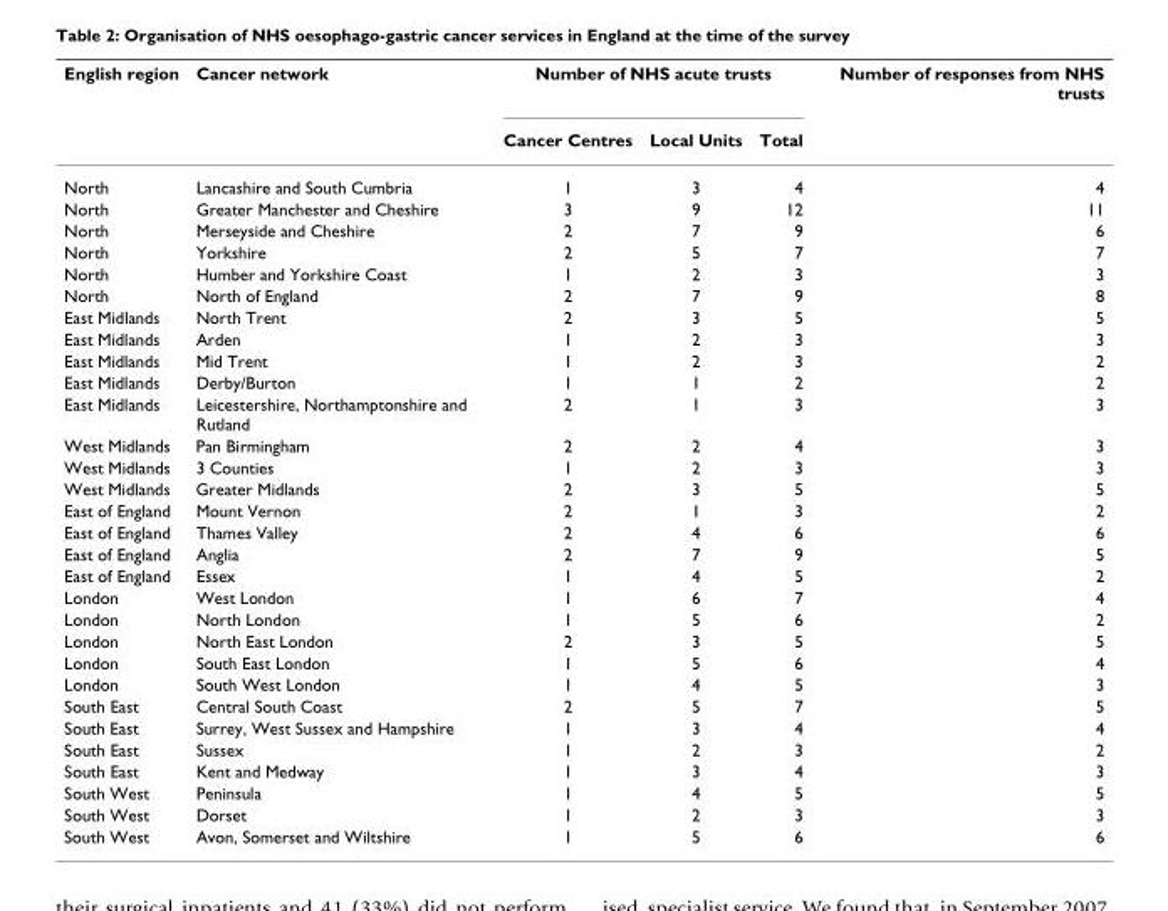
<table><thead><tr><td rowspan="2">English region</td><td rowspan="2">Cancer network</td><td colspan="3">Number of NHS acute trusts</td><td rowspan="2">Number of responses from NHS trusts</td></tr><tr><td>Cancer Centres</td><td>Local Units</td><td>Total</td></tr></thead><tbody><tr><td>North</td><td>Lancashire and South Cumbria</td><td>1</td><td>3</td><td>4</td><td>4</td></tr><tr><td>North</td><td>Greater Manchester and Cheshire</td><td>3</td><td>9</td><td>12</td><td>11</td></tr><tr><td>North</td><td>Merseyside and Cheshire</td><td>2</td><td>7</td><td>9</td><td>6</td></tr><tr><td>North</td><td>Yorkshire</td><td>2</td><td>5</td><td>7</td><td>7</td></tr><tr><td>North</td><td>Humber and Yorkshire Coast</td><td>1</td><td>2</td><td>3</td><td>3</td></tr><tr><td>North</td><td>North of England</td><td>2</td><td>7</td><td>9</td><td>8</td></tr><tr><td>East Midlands</td><td>North Trent</td><td>2</td><td>3</td><td>5</td><td>5</td></tr><tr><td>East Midlands</td><td>Arden</td><td>1</td><td>2</td><td>3</td><td>3</td></tr><tr><td>East Midlands</td><td>Mid Trent</td><td>1</td><td>2</td><td>3</td><td>2</td></tr><tr><td>East Midlands</td><td>Derby/Burton</td><td>1</td><td>1</td><td>2</td><td>2</td></tr><tr><td>East Midlands</td><td>Leicestershire, Northamptonshire and Rutland</td><td>2</td><td>1</td><td>3</td><td>3</td></tr><tr><td>West Midlands</td><td>Pan Birmingham</td><td>2</td><td>2</td><td>4</td><td>3</td></tr><tr><td>West Midlands</td><td>3 Counties</td><td>1</td><td>2</td><td>3</td><td>3</td></tr><tr><td>West Midlands</td><td>Greater Midlands</td><td>2</td><td>3</td><td>5</td><td>5</td></tr><tr><td>East of England</td><td>Mount Vernon</td><td>2</td><td>1</td><td>3</td><td>2</td></tr><tr><td>East of England</td><td>Thames Valley</td><td>2</td><td>4</td><td>6</td><td>6</td></tr><tr><td>East of England</td><td>Anglia</td><td>2</td><td>7</td><td>9</td><td>5</td></tr><tr><td>East of England</td><td>Essex</td><td>1</td><td>4</td><td>5</td><td>2</td></tr><tr><td>London</td><td>West London</td><td>1</td><td>6</td><td>7</td><td>4</td></tr><tr><td>London</td><td>North London</td><td>1</td><td>5</td><td>6</td><td>2</td></tr><tr><td>London</td><td>North East London</td><td>2</td><td>3</td><td>5</td><td>5</td></tr><tr><td>London</td><td>South East London</td><td>1</td><td>5</td><td>6</td><td>4</td></tr><tr><td>London</td><td>South West London</td><td>1</td><td>4</td><td>5</td><td>3</td></tr><tr><td>South East</td><td>Central South Coast</td><td>2</td><td>5</td><td>7</td><td>5</td></tr><tr><td>South East</td><td>Surrey, West Sussex and Hampshire</td><td>1</td><td>3</td><td>4</td><td>4</td></tr><tr><td>South East</td><td>Sussex</td><td>1</td><td>2</td><td>3</td><td>2</td></tr><tr><td>South East</td><td>Kent and Medway</td><td>1</td><td>3</td><td>4</td><td>3</td></tr><tr><td>South West</td><td>Peninsula</td><td>1</td><td>4</td><td>5</td><td>5</td></tr><tr><td>South West</td><td>Dorset</td><td>1</td><td>2</td><td>3</td><td>3</td></tr><tr><td>South West</td><td>Avon, Somerset and Wiltshire</td><td>1</td><td>5</td><td>6</td><td>6</td></tr></tbody></table>